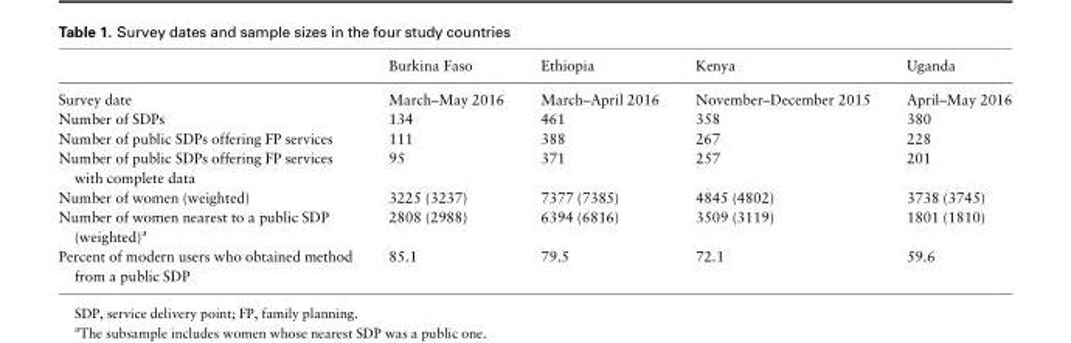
<table><thead><tr><td></td><td>Burkina Faso</td><td>Ethiopia</td><td>Kenya</td><td>Uganda</td></tr></thead><tbody><tr><td>Survey date</td><td>March–May 2016</td><td>March–April 2016</td><td>November–December 2015</td><td>April–May 2016</td></tr><tr><td>Number of SDPs</td><td>134</td><td>461</td><td>358</td><td>380</td></tr><tr><td>Number of public SDPs offering FP services</td><td>111</td><td>388</td><td>267</td><td>228</td></tr><tr><td>Number of public SDPs offering FP services with complete data</td><td>95</td><td>371</td><td>257</td><td>201</td></tr><tr><td>Number of women (weighted)</td><td>3225 (3237)</td><td>7377 (7385)</td><td>4845 (4802)</td><td>3738 (3745)</td></tr><tr><td>Number of women nearest to a public SDP (weighted)<sup>a</sup></td><td>2808 (2988)</td><td>6394 (6816)</td><td>3509 (3119)</td><td>1801 (1810)</td></tr><tr><td>Percent of modern users who obtained method from a public SDP</td><td>85.1</td><td>79.5</td><td>72.1</td><td>59.6</td></tr></tbody></table>